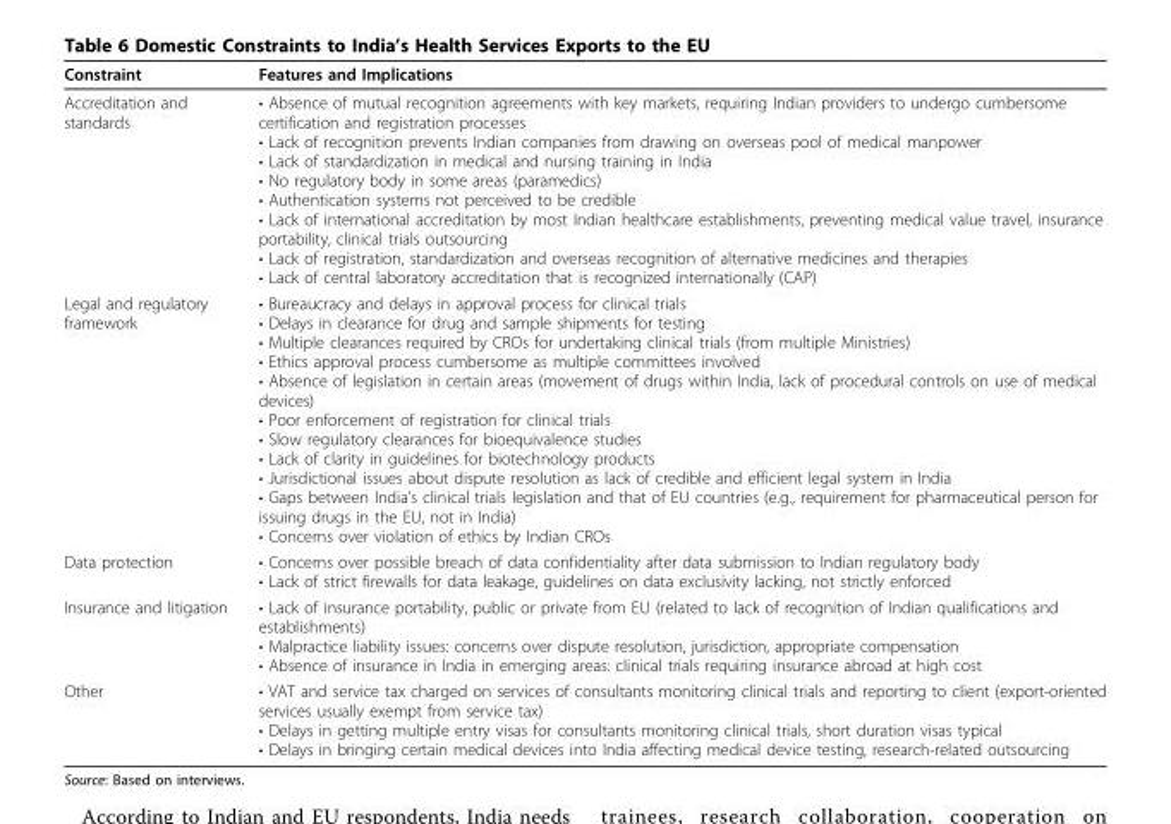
<table><thead><tr><td>Constraint</td><td>Features and Implications</td></tr></thead><tbody><tr><td>Accreditation and standards</td><td>• Absence of mutual recognition agreements with key markets, requiring Indian providers to undergo cumbersome certification and registration processes • Lack of recognition prevents Indian companies from drawing on overseas pool of medical manpower • Lack of standardization in medical and nursing training in India • No regulatory body in some areas (paramedics) • Authentication systems not perceived to be credible • Lack of international accreditation by most Indian healthcare establishments, preventing medical value travel, insurance portability, clinical trials outsourcing • Lack of registration, standardization and overseas recognition of alternative medicines and therapies • Lack of central laboratory accreditation that is recognized internationally (CAP)</td></tr><tr><td>Legal and regulatory framework</td><td>• Bureaucracy and delays in approval process for clinical trials • Delays in clearance for drug and sample shipments for testing • Multiple clearances required by CROs for undertaking clinical trials (from multiple Ministries) • Ethics approval process cumbersome as multiple committees involved • Absence of legislation in certain areas (movement of drugs within India, lack of procedural controls on use of medical devices) • Poor enforcement of registration for clinical trials • Slow regulatory clearances for bioequivalence studies • Lack of clarity in guidelines for biotechnology products • Jurisdictional issues about dispute resolution as lack of credible and efficient legal system in India • Gaps between India’s clinical trials legislation and that of EU countries (e.g., requirement for pharmaceutical person for issuing drugs in the EU, not in India) • Concerns over violation of ethics by Indian CROs</td></tr><tr><td>Data protection</td><td>• Concerns over possible breach of data confidentiality after data submission to Indian regulatory body • Lack of strict firewalls for data leakage, guidelines on data exclusivity lacking, not strictly enforced</td></tr><tr><td>Insurance and litigation</td><td>• Lack of insurance portability, public or private from EU (related to lack of recognition of Indian qualifications and establishments) • Malpractice liability issues: concerns over dispute resolution, jurisdiction, appropriate compensation • Absence of insurance in India in emerging areas: clinical trials requiring insurance abroad at high cost</td></tr><tr><td>Other</td><td>• VAT and service tax charged on services of consultants monitoring clinical trials and reporting to client (export-oriented services usually exempt from service tax) • Delays in getting multiple entry visas for consultants monitoring clinical trials, short duration visas typical • Delays in bringing certain medical devices into India affecting medical device testing, research-related outsourcing</td></tr></tbody></table>